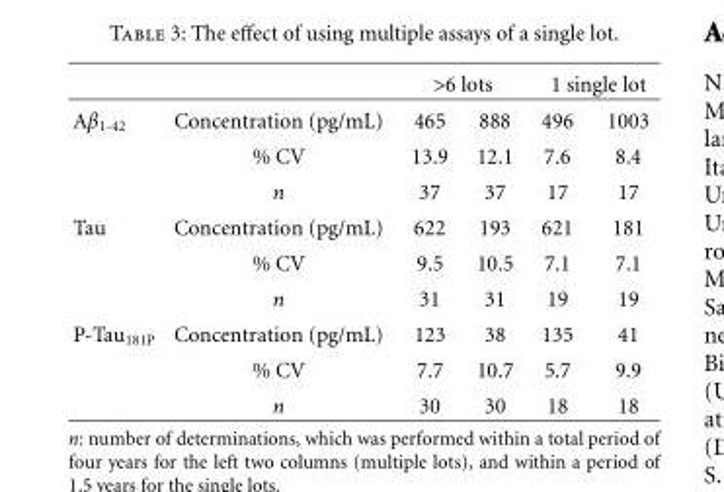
<table><thead><tr><td rowspan="2">Aβ<sub>1-42</sub></td><td rowspan="2">Concentration (pg/mL)</td><td colspan="2">&gt;6 lots</td><td colspan="2">1 single lot</td></tr><tr><td>465</td><td>888</td><td>496</td><td>1003</td></tr></thead><tbody><tr><td></td><td>% CV</td><td>13.9</td><td>12.1</td><td>7.6</td><td>8.4</td></tr><tr><td></td><td>n</td><td>37</td><td>37</td><td>17</td><td>17</td></tr><tr><td rowspan="3">Tau</td><td>Concentration (pg/mL)</td><td>622</td><td>193</td><td>621</td><td>181</td></tr><tr><td>% CV</td><td>9.5</td><td>10.5</td><td>7.1</td><td>7.1</td></tr><tr><td>n</td><td>31</td><td>31</td><td>19</td><td>19</td></tr><tr><td rowspan="3">P-Tau<sub>181P</sub></td><td>Concentration (pg/mL)</td><td>123</td><td>38</td><td>135</td><td>41</td></tr><tr><td>% CV</td><td>7.7</td><td>10.7</td><td>5.7</td><td>9.9</td></tr><tr><td>n</td><td>30</td><td>30</td><td>18</td><td>18</td></tr></tbody></table>